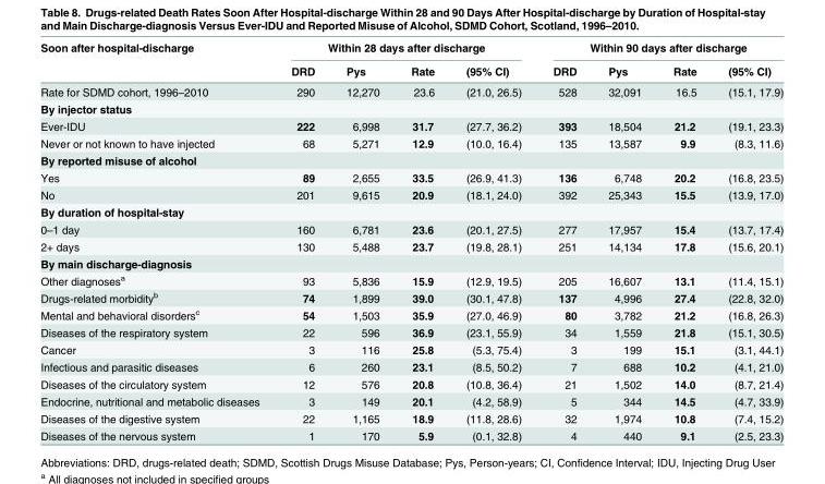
<table><thead><tr><td rowspan="2">Soon after hospital-discharge</td><td colspan="4">Within 28 days after discharge</td><td colspan="4">Within 90 days after discharge</td></tr><tr><td>DRD</td><td>Pys</td><td>Rate</td><td>(95% CI)</td><td>DRD</td><td>Pys</td><td>Rate</td><td>(95% CI)</td></tr></thead><tbody><tr><td>Rate for SDMD cohort, 1996–2010</td><td>290</td><td>12,270</td><td>23.6</td><td>(21.0, 26.5)</td><td>528</td><td>32,091</td><td>16.5</td><td>(15.1, 17.9)</td></tr><tr><td colspan="9">By injector status</td></tr><tr><td>Ever-IDU</td><td>222</td><td>6,998</td><td>31.7</td><td>(27.7, 36.2)</td><td>393</td><td>18,504</td><td>21.2</td><td>(19.1, 23.3)</td></tr><tr><td>Never or not known to have injected</td><td>68</td><td>5,271</td><td>12.9</td><td>(10.0, 16.4)</td><td>135</td><td>13,587</td><td>9.9</td><td>(8.3, 11.6)</td></tr><tr><td colspan="9">By reported misuse of alcohol</td></tr><tr><td>Yes</td><td>89</td><td>2,655</td><td>33.5</td><td>(26.9, 41.3)</td><td>136</td><td>6,748</td><td>20.2</td><td>(16.8, 23.5)</td></tr><tr><td>No</td><td>201</td><td>9,615</td><td>20.9</td><td>(18.1, 24.0)</td><td>392</td><td>25,343</td><td>15.5</td><td>(13.9, 17.0)</td></tr><tr><td colspan="9">By duration of hospital-stay</td></tr><tr><td>0–1 day</td><td>160</td><td>6,781</td><td>23.6</td><td>(20.1, 27.5)</td><td>277</td><td>17,957</td><td>15.4</td><td>(13.7, 17.4)</td></tr><tr><td>2+ days</td><td>130</td><td>5,488</td><td>23.7</td><td>(19.8, 28.1)</td><td>251</td><td>14,134</td><td>17.8</td><td>(15.6, 20.1)</td></tr><tr><td colspan="9">By main discharge-diagnosis</td></tr><tr><td>Other diagnoses<sup>a</sup></td><td>93</td><td>5,836</td><td>15.9</td><td>(12.9, 19.5)</td><td>205</td><td>16,607</td><td>13.1</td><td>(11.4, 15.1)</td></tr><tr><td>Drugs-related morbidity<sup>b</sup></td><td>74</td><td>1,899</td><td>39.0</td><td>(30.1, 47.8)</td><td>137</td><td>4,996</td><td>27.4</td><td>(22.8, 32.0)</td></tr><tr><td>Mental and behavioral disorders<sup>c</sup></td><td>54</td><td>1,503</td><td>35.9</td><td>(27.0, 46.9)</td><td>80</td><td>3,782</td><td>21.2</td><td>(16.8, 26.3)</td></tr><tr><td>Diseases of the respiratory system</td><td>22</td><td>596</td><td>36.9</td><td>(23.1, 55.9)</td><td>34</td><td>1,559</td><td>21.8</td><td>(15.1, 30.5)</td></tr><tr><td>Cancer</td><td>3</td><td>116</td><td>25.8</td><td>(5.3, 75.4)</td><td>3</td><td>199</td><td>15.1</td><td>(3.1, 44.1)</td></tr><tr><td>Infectious and parasitic diseases</td><td>6</td><td>260</td><td>23.1</td><td>(8.5, 50.2)</td><td>7</td><td>688</td><td>10.2</td><td>(4.1, 21.0)</td></tr><tr><td>Diseases of the circulatory system</td><td>12</td><td>576</td><td>20.8</td><td>(10.8, 36.4)</td><td>21</td><td>1,502</td><td>14.0</td><td>(8.7, 21.4)</td></tr><tr><td>Endocrine, nutritional and metabolic diseases</td><td>3</td><td>149</td><td>20.1</td><td>(4.2, 58.9)</td><td>5</td><td>344</td><td>14.5</td><td>(4.7, 33.9)</td></tr><tr><td>Diseases of the digestive system</td><td>22</td><td>1,165</td><td>18.9</td><td>(11.8, 28.6)</td><td>32</td><td>1,974</td><td>10.8</td><td>(7.4, 15.2)</td></tr><tr><td>Diseases of the nervous system</td><td>1</td><td>170</td><td>5.9</td><td>(0.1, 32.8)</td><td>4</td><td>440</td><td>9.1</td><td>(2.5, 23.3)</td></tr></tbody></table>